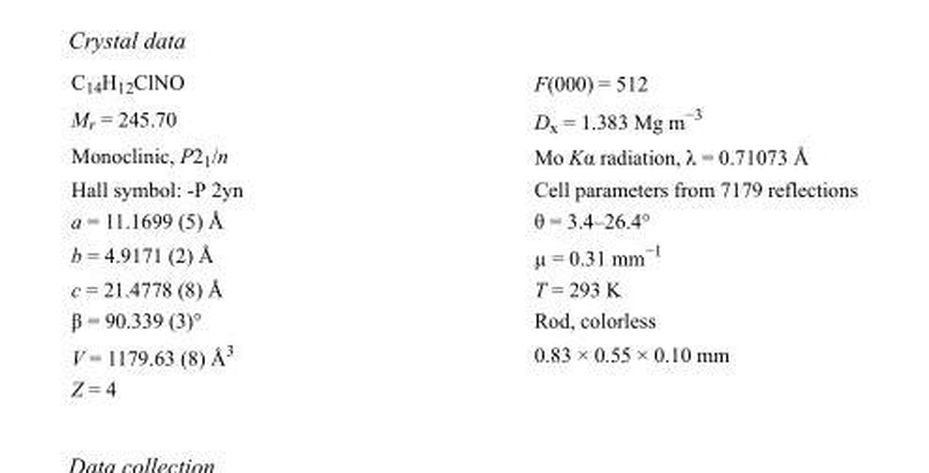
<table><tbody><tr><td>C<sub>14</sub>H<sub>12</sub>ClNO</td><td>F(000) = 512</td></tr><tr><td>M<sub>r</sub> = 245.70</td><td>D<sub>x</sub> = 1.383 Mg m<sup>−3</sup></td></tr><tr><td>Monoclinic, P2<sub>1</sub>/n</td><td>Mo Kα radiation, λ = 0.71073 Å</td></tr><tr><td>Hall symbol: -P 2yn</td><td>Cell parameters from 7179 reflections</td></tr><tr><td>a = 11.1699 (5) Å</td><td>θ = 3.4–26.4°</td></tr><tr><td>b = 4.9171 (2) Å</td><td>µ = 0.31 mm<sup>−1</sup></td></tr><tr><td>c = 21.4778 (8) Å</td><td>T = 293 K</td></tr><tr><td>β = 90.339 (3)°</td><td>Rod, colorless</td></tr><tr><td>V = 1179.63 (8) Å<sup>3</sup></td><td>0.83 × 0.55 × 0.10 mm</td></tr><tr><td>Z = 4</td><td></td></tr></tbody></table>